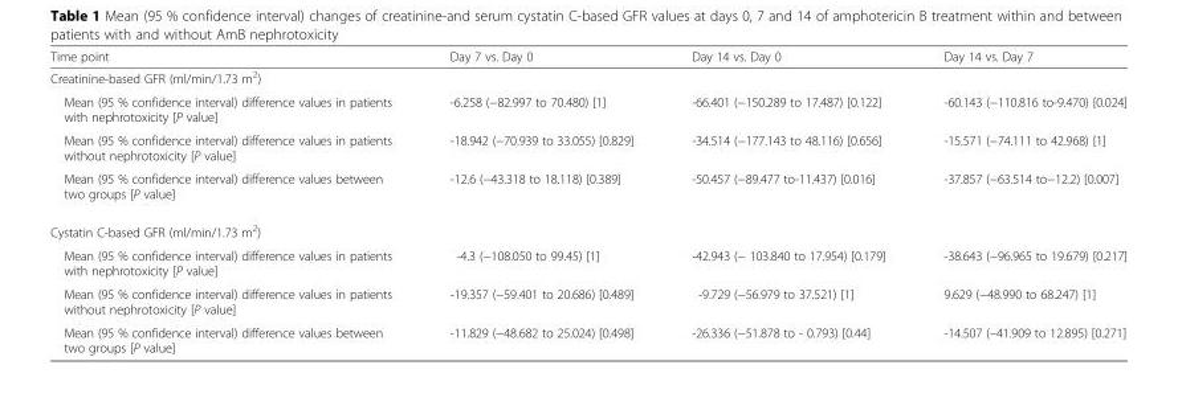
<table><thead><tr><td>Time point</td><td>Day 7 vs. Day 0</td><td>Day 14 vs. Day 0</td><td>Day 14 vs. Day 7</td></tr></thead><tbody><tr><td colspan="4">Creatinine-based GFR (ml/min/1.73 m<sup>2</sup>)</td></tr><tr><td>Mean (95 % confidence interval) difference values in patients with nephrotoxicity [P value]</td><td>-6.258 (−82.997 to 70.480) [1]</td><td>-66.401 (−150.289 to 17.487) [0.122]</td><td>-60.143 (−110.816 to-9.470) [0.024]</td></tr><tr><td>Mean (95 % confidence interval) difference values in patients without nephrotoxicity [P value]</td><td>-18.942 (−70.939 to 33.055) [0.829]</td><td>-34.514 (−177.143 to 48.116) [0.656]</td><td>-15.571 (−74.111 to 42.968) [1]</td></tr><tr><td>Mean (95 % confidence interval) difference values between two groups [P value]</td><td>-12.6 (−43.318 to 18.118) [0.389]</td><td>-50.457 (−89.477 to-11.437) [0.016]</td><td>-37.857 (−63.514 to−12.2) [0.007]</td></tr><tr><td colspan="4">Cystatin C-based GFR (ml/min/1.73 m<sup>2</sup>)</td></tr><tr><td>Mean (95 % confidence interval) difference values in patients with nephrotoxicity [P value]</td><td>-4.3 (−108.050 to 99.45) [1]</td><td>-42.943 (− 103.840 to 17.954) [0.179]</td><td>-38.643 (−96.965 to 19.679) [0.217]</td></tr><tr><td>Mean (95 % confidence interval) difference values in patients without nephrotoxicity [P value]</td><td>-19.357 (−59.401 to 20.686) [0.489]</td><td>-9.729 (−56.979 to 37.521) [1]</td><td>9.629 (−48.990 to 68.247) [1]</td></tr><tr><td>Mean (95 % confidence interval) difference values between two groups [P value]</td><td>-11.829 (−48.682 to 25.024) [0.498]</td><td>-26.336 (−51.878 to - 0.793) [0.44]</td><td>-14.507 (–41.909 to 12.895) [0.271]</td></tr></tbody></table>